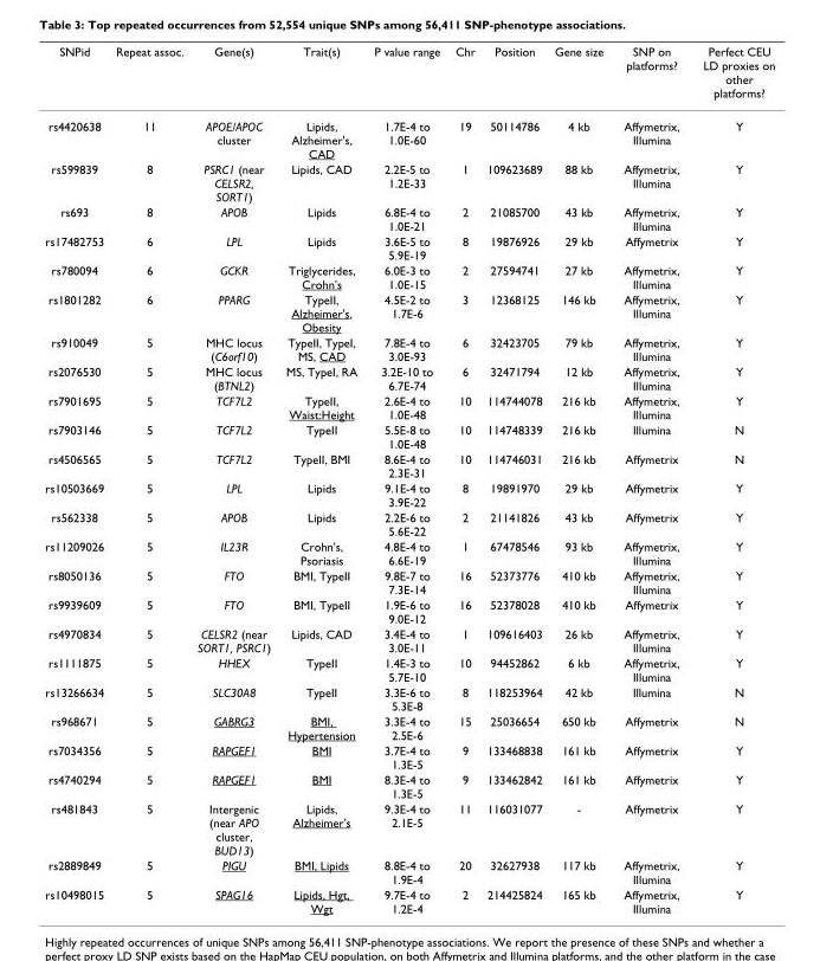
<table><thead><tr><td>SNPid</td><td>Repeat assoc.</td><td>Gene(s)</td><td>Trait(s)</td><td>P value range</td><td>Chr</td><td>Position</td><td>Gene size</td><td>SNP on platforms?</td><td>Perfect CEU LD proxies on other platforms?</td></tr></thead><tbody><tr><td>rs4420638</td><td>11</td><td>APOE/APOC cluster</td><td>Lipids, Alzheimer&#x27;s, CAD</td><td>1.7E-4 to 1.0E-60</td><td>19</td><td>50114786</td><td>4 kb</td><td>Affymetrix, Illumina</td><td>Y</td></tr><tr><td>rs599839</td><td>8</td><td>PSRC1 (near CELSR2, SORT1)</td><td>Lipids, CAD</td><td>2.2E-5 to 1.2E-33</td><td>1</td><td>109623689</td><td>88 kb</td><td>Affymetrix, Illumina</td><td>Y</td></tr><tr><td>rs693</td><td>8</td><td>APOB</td><td>Lipids</td><td>6.8E-4 to 1.0E-21</td><td>2</td><td>21085700</td><td>43 kb</td><td>Affymetrix, Illumina</td><td>Y</td></tr><tr><td>rs17482753</td><td>6</td><td>LPL</td><td>Lipids</td><td>3.6E-5 to 5.9E-19</td><td>8</td><td>19876926</td><td>29 kb</td><td>Affymetrix</td><td>Y</td></tr><tr><td>rs780094</td><td>6</td><td>GCKR</td><td>Triglycerides, Crohn&#x27;s</td><td>6.0E-3 to 1.0E-15</td><td>2</td><td>27594741</td><td>27 kb</td><td>Affymetrix, Illumina</td><td>Y</td></tr><tr><td>rs1801282</td><td>6</td><td>PPARG</td><td>TypeII, Alzheimer&#x27;s, Obesity</td><td>4.5E-2 to 1.7E-6</td><td>3</td><td>12368125</td><td>146 kb</td><td>Affymetrix, Illumina</td><td>Y</td></tr><tr><td>rs910049</td><td>5</td><td>MHC locus (C6orf10)</td><td>TypeII, TypeI, MS, CAD</td><td>7.8E-4 to 3.0E-93</td><td>6</td><td>32423705</td><td>79 kb</td><td>Affymetrix, Illumina</td><td>Y</td></tr><tr><td>rs2076530</td><td>5</td><td>MHC locus (BTNL2)</td><td>MS, TypeI, RA</td><td>3.2E-10 to 6.7E-74</td><td>6</td><td>32471794</td><td>12 kb</td><td>Affymetrix, Illumina</td><td>Y</td></tr><tr><td>rs7901695</td><td>5</td><td>TCF7L2</td><td>TypeII, Waist:Height</td><td>2.6E-4 to 1.0E-48</td><td>10</td><td>114744078</td><td>216 kb</td><td>Affymetrix, Illumina</td><td>Y</td></tr><tr><td>rs7903146</td><td>5</td><td>TCF7L2</td><td>TypeII</td><td>5.5E-8 to 1.0E-48</td><td>10</td><td>114748339</td><td>216 kb</td><td>Illumina</td><td>N</td></tr><tr><td>rs4506565</td><td>5</td><td>TCF7L2</td><td>TypeII, BMI</td><td>8.6E-4 to 2.3E-31</td><td>10</td><td>114746031</td><td>216 kb</td><td>Affymetrix</td><td>N</td></tr><tr><td>rs10503669</td><td>5</td><td>LPL</td><td>Lipids</td><td>9.1E-4 to 3.9E-22</td><td>8</td><td>19891970</td><td>29 kb</td><td>Affymetrix</td><td>Y</td></tr><tr><td>rs562338</td><td>5</td><td>APOB</td><td>Lipids</td><td>2.2E-6 to 5.6E-22</td><td>2</td><td>21141826</td><td>43 kb</td><td>Affymetrix</td><td>Y</td></tr><tr><td>rs11209026</td><td>5</td><td>IL23R</td><td>Crohn&#x27;s, Psoriasis</td><td>4.8E-4 to 6.6E-19</td><td>1</td><td>67478546</td><td>93 kb</td><td>Affymetrix, Illumina</td><td>Y</td></tr><tr><td>rs8050136</td><td>5</td><td>FTO</td><td>BMI, TypeII</td><td>9.8E-7 to 7.3E-14</td><td>16</td><td>52373776</td><td>410 kb</td><td>Affymetrix, Illumina</td><td>Y</td></tr><tr><td>rs9939609</td><td>5</td><td>FTO</td><td>BMI, TypeII</td><td>1.9E-6 to 9.0E-12</td><td>16</td><td>52378028</td><td>410 kb</td><td>Affymetrix</td><td>Y</td></tr><tr><td>rs4970834</td><td>5</td><td>CELSR2 (near SORT1, PSRC1)</td><td>Lipids, CAD</td><td>3.4E-4 to 3.0E-11</td><td>1</td><td>109616403</td><td>26 kb</td><td>Affymetrix, Illumina</td><td>Y</td></tr><tr><td>rs1111875</td><td>5</td><td>HHEX</td><td>TypeII</td><td>1.4E-3 to 5.7E-10</td><td>10</td><td>94452862</td><td>6 kb</td><td>Affymetrix, Illumina</td><td>Y</td></tr><tr><td>rs13266634</td><td>5</td><td>SLC30A8</td><td>TypeII</td><td>3.3E-6 to 5.3E-8</td><td>8</td><td>118253964</td><td>42 kb</td><td>Illumina</td><td>N</td></tr><tr><td>rs968671</td><td>5</td><td>GABRG3</td><td>BMI, Hypertension</td><td>3.3E-4 to 2.5E-6</td><td>15</td><td>25036654</td><td>650 kb</td><td>Affymetrix</td><td>N</td></tr><tr><td>rs7034356</td><td>5</td><td>RAPGEF1</td><td>BMI</td><td>3.7E-4 to 1.3E-5</td><td>9</td><td>133468838</td><td>161 kb</td><td>Affymetrix</td><td>Y</td></tr><tr><td>rs4740294</td><td>5</td><td>RAPGEF1</td><td>BMI</td><td>8.3E-4 to 1.3E-5</td><td>9</td><td>133462842</td><td>161 kb</td><td>Affymetrix</td><td>Y</td></tr><tr><td>rs481843</td><td>5</td><td>Intergenic (near APO cluster, BUD13)</td><td>Lipids, Alzheimer&#x27;s</td><td>9.3E-4 to 2.1E-5</td><td>11</td><td>116031077</td><td>-</td><td>Affymetrix</td><td>Y</td></tr><tr><td>rs2889849</td><td>5</td><td>PIGU</td><td>BMI, Lipids</td><td>8.8E-4 to 1.9E-4</td><td>20</td><td>32627938</td><td>117 kb</td><td>Affymetrix, Illumina</td><td>Y</td></tr><tr><td>rs10498015</td><td>5</td><td>SPAG16</td><td>Lipids, Hgt, Wgt</td><td>9.7E-4 to 1.2E-4</td><td>2</td><td>214425824</td><td>165 kb</td><td>Affymetrix, Illumina</td><td>Y</td></tr></tbody></table>